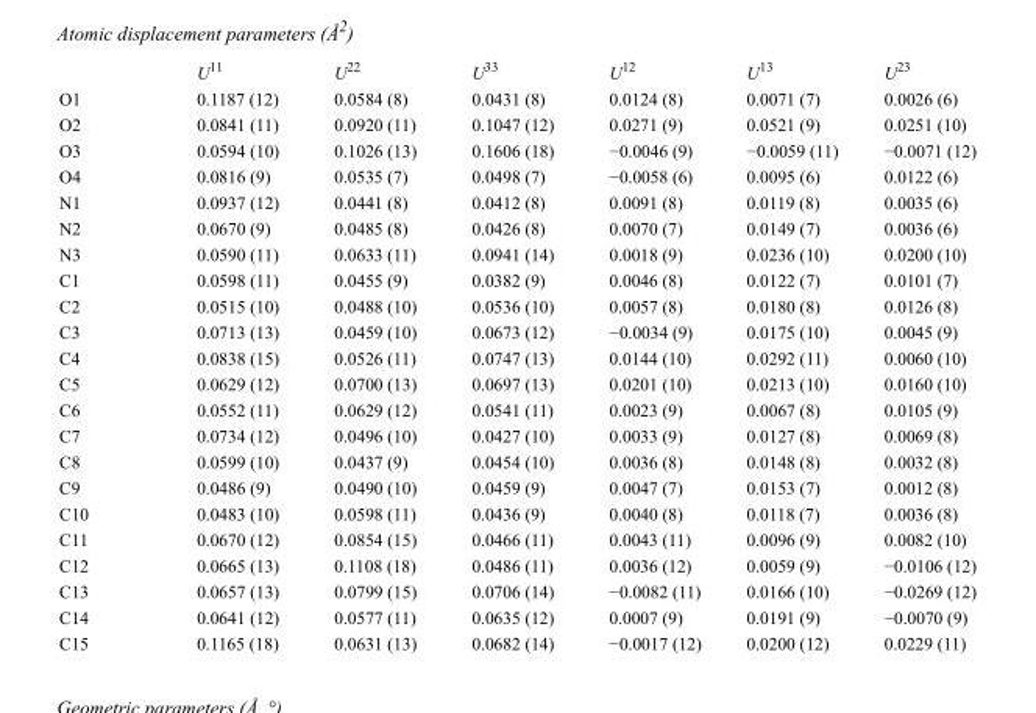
<table><thead><tr><td></td><td>U<sup>11</sup></td><td>U<sup>22</sup></td><td>U<sup>33</sup></td><td>U<sup>12</sup></td><td>U<sup>13</sup></td><td>U<sup>23</sup></td></tr></thead><tbody><tr><td>O1</td><td>0.1187 (12)</td><td>0.0584 (8)</td><td>0.0431 (8)</td><td>0.0124 (8)</td><td>0.0071 (7)</td><td>0.0026 (6)</td></tr><tr><td>O2</td><td>0.0841 (11)</td><td>0.0920 (11)</td><td>0.1047 (12)</td><td>0.0271 (9)</td><td>0.0521 (9)</td><td>0.0251 (10)</td></tr><tr><td>O3</td><td>0.0594 (10)</td><td>0.1026 (13)</td><td>0.1606 (18)</td><td>−0.0046 (9)</td><td>−0.0059 (11)</td><td>−0.0071 (12)</td></tr><tr><td>O4</td><td>0.0816 (9)</td><td>0.0535 (7)</td><td>0.0498 (7)</td><td>−0.0058 (6)</td><td>0.0095 (6)</td><td>0.0122 (6)</td></tr><tr><td>N1</td><td>0.0937 (12)</td><td>0.0441 (8)</td><td>0.0412 (8)</td><td>0.0091 (8)</td><td>0.0119 (8)</td><td>0.0035 (6)</td></tr><tr><td>N2</td><td>0.0670 (9)</td><td>0.0485 (8)</td><td>0.0426 (8)</td><td>0.0070 (7)</td><td>0.0149 (7)</td><td>0.0036 (6)</td></tr><tr><td>N3</td><td>0.0590 (11)</td><td>0.0633 (11)</td><td>0.0941 (14)</td><td>0.0018 (9)</td><td>0.0236 (10)</td><td>0.0200 (10)</td></tr><tr><td>C1</td><td>0.0598 (11)</td><td>0.0455 (9)</td><td>0.0382 (9)</td><td>0.0046 (8)</td><td>0.0122 (7)</td><td>0.0101 (7)</td></tr><tr><td>C2</td><td>0.0515 (10)</td><td>0.0488 (10)</td><td>0.0536 (10)</td><td>0.0057 (8)</td><td>0.0180 (8)</td><td>0.0126 (8)</td></tr><tr><td>C3</td><td>0.0713 (13)</td><td>0.0459 (10)</td><td>0.0673 (12)</td><td>−0.0034 (9)</td><td>0.0175 (10)</td><td>0.0045 (9)</td></tr><tr><td>C4</td><td>0.0838 (15)</td><td>0.0526 (11)</td><td>0.0747 (13)</td><td>0.0144 (10)</td><td>0.0292 (11)</td><td>0.0060 (10)</td></tr><tr><td>C5</td><td>0.0629 (12)</td><td>0.0700 (13)</td><td>0.0697 (13)</td><td>0.0201 (10)</td><td>0.0213 (10)</td><td>0.0160 (10)</td></tr><tr><td>C6</td><td>0.0552 (11)</td><td>0.0629 (12)</td><td>0.0541 (11)</td><td>0.0023 (9)</td><td>0.0067 (8)</td><td>0.0105 (9)</td></tr><tr><td>C7</td><td>0.0734 (12)</td><td>0.0496 (10)</td><td>0.0427 (10)</td><td>0.0033 (9)</td><td>0.0127 (8)</td><td>0.0069 (8)</td></tr><tr><td>C8</td><td>0.0599 (10)</td><td>0.0437 (9)</td><td>0.0454 (10)</td><td>0.0036 (8)</td><td>0.0148 (8)</td><td>0.0032 (8)</td></tr><tr><td>C9</td><td>0.0486 (9)</td><td>0.0490 (10)</td><td>0.0459 (9)</td><td>0.0047 (7)</td><td>0.0153 (7)</td><td>0.0012 (8)</td></tr><tr><td>C10</td><td>0.0483 (10)</td><td>0.0598 (11)</td><td>0.0436 (9)</td><td>0.0040 (8)</td><td>0.0118 (7)</td><td>0.0036 (8)</td></tr><tr><td>C11</td><td>0.0670 (12)</td><td>0.0854 (15)</td><td>0.0466 (11)</td><td>0.0043 (11)</td><td>0.0096 (9)</td><td>0.0082 (10)</td></tr><tr><td>C12</td><td>0.0665 (13)</td><td>0.1108 (18)</td><td>0.0486 (11)</td><td>0.0036 (12)</td><td>0.0059 (9)</td><td>−0.0106 (12)</td></tr><tr><td>C13</td><td>0.0657 (13)</td><td>0.0799 (15)</td><td>0.0706 (14)</td><td>−0.0082 (11)</td><td>0.0166 (10)</td><td>−0.0269 (12)</td></tr><tr><td>C14</td><td>0.0641 (12)</td><td>0.0577 (11)</td><td>0.0635 (12)</td><td>0.0007 (9)</td><td>0.0191 (9)</td><td>−0.0070 (9)</td></tr><tr><td>C15</td><td>0.1165 (18)</td><td>0.0631 (13)</td><td>0.0682 (14)</td><td>−0.0017 (12)</td><td>0.0200 (12)</td><td>0.0229 (11)</td></tr></tbody></table>